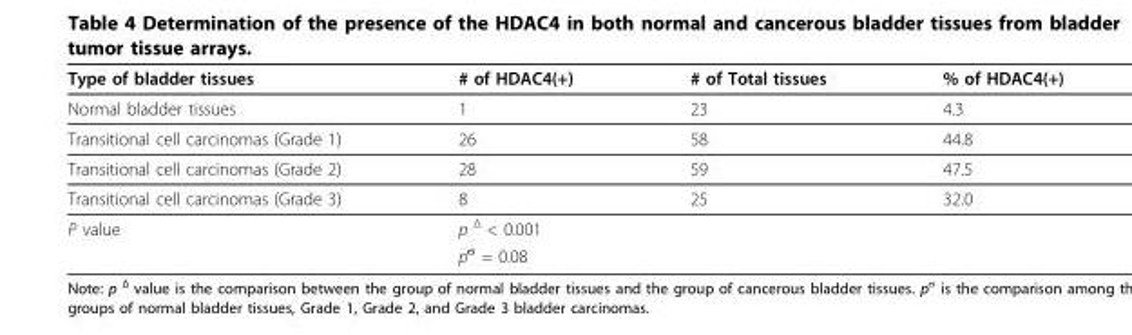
<table><thead><tr><td>Type of bladder tissues</td><td># of HDAC4(+)</td><td># of Total tissues</td><td>% of HDAC4(+)</td></tr></thead><tbody><tr><td>Normal bladder tissues</td><td>1</td><td>23</td><td>4.3</td></tr><tr><td>Transitional cell carcinomas (Grade 1)</td><td>26</td><td>58</td><td>44.8</td></tr><tr><td>Transitional cell carcinomas (Grade 2)</td><td>28</td><td>59</td><td>47.5</td></tr><tr><td>Transitional cell carcinomas (Grade 3)</td><td>8</td><td>25</td><td>32.0</td></tr><tr><td rowspan="2">P value</td><td colspan="3">p <sup>Δ</sup> &lt; 0.001</td></tr><tr><td colspan="3">p<sup>σ</sup> = 0.08</td></tr></tbody></table>